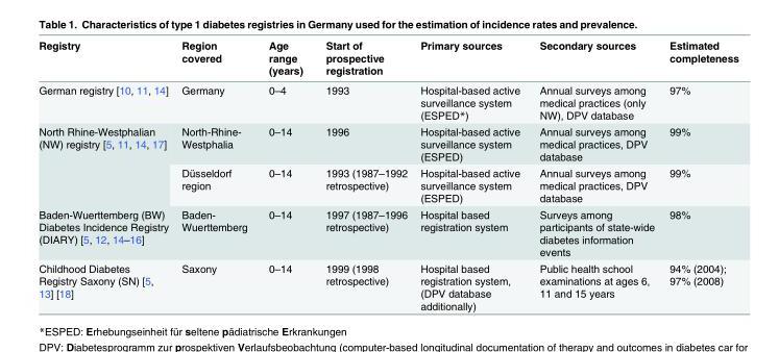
<table><thead><tr><td>Registry</td><td>Region covered</td><td>Age range (years)</td><td>Start of prospective registration</td><td>Primary sources</td><td>Secondary sources</td><td>Estimated completeness</td></tr></thead><tbody><tr><td>German registry [10, 11, 14]</td><td>Germany</td><td>0–4</td><td>1993</td><td>Hospital-based active surveillance system (ESPED*)</td><td>Annual surveys among medical practices (only NW), DPV database</td><td>97%</td></tr><tr><td rowspan="2">North Rhine-Westphalian (NW) registry [5, 11, 14, 17]</td><td>North-Rhine- Westphalia</td><td>0–14</td><td>1996</td><td>Hospital-based active surveillance system (ESPED)</td><td>Annual surveys among medical practices, DPV database</td><td>99%</td></tr><tr><td>Düsseldorf region</td><td>0–14</td><td>1993 (1987–1992 retrospective)</td><td>Hospital-based active surveillance system (ESPED)</td><td>Annual surveys among medical practices, DPV database</td><td>99%</td></tr><tr><td>Baden-Wuerttemberg (BW) Diabetes Incidence Registry (DIARY) [5, 12, 14–16]</td><td>Baden- Wuerttemberg</td><td>0–14</td><td>1997 (1987–1996 retrospective)</td><td>Hospital based registration system</td><td>Surveys among participants of state-wide diabetes information events</td><td>98%</td></tr><tr><td>Childhood Diabetes Registry Saxony (SN) [5, 13] [18]</td><td>Saxony</td><td>0–14</td><td>1999 (1998 retrospective)</td><td>Hospital based registration system, (DPV database additionally)</td><td>Public health school examinations at ages 6, 11 and 15 years</td><td>94% (2004); 97% (2008)</td></tr></tbody></table>